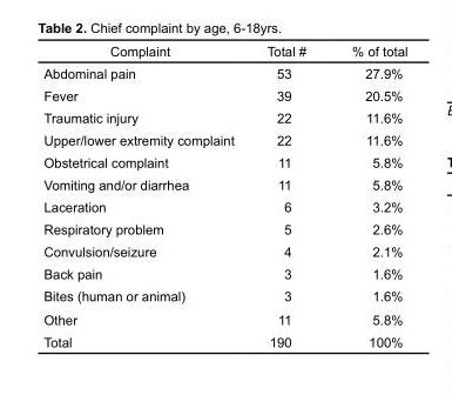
<table><thead><tr><td>Complaint</td><td>Total #</td><td>% of total</td></tr></thead><tbody><tr><td>Abdominal pain</td><td>53</td><td>27.9%</td></tr><tr><td>Fever</td><td>39</td><td>20.5%</td></tr><tr><td>Traumatic injury</td><td>22</td><td>11.6%</td></tr><tr><td>Upper/lower extremity complaint</td><td>22</td><td>11.6%</td></tr><tr><td>Obstetrical complaint</td><td>11</td><td>5.8%</td></tr><tr><td>Vomiting and/or diarrhea</td><td>11</td><td>5.8%</td></tr><tr><td>Laceration</td><td>6</td><td>3.2%</td></tr><tr><td>Respiratory problem</td><td>5</td><td>2.6%</td></tr><tr><td>Convulsion/seizure</td><td>4</td><td>2.1%</td></tr><tr><td>Back pain</td><td>3</td><td>1.6%</td></tr><tr><td>Bites (human or animal)</td><td>3</td><td>1.6%</td></tr><tr><td>Other</td><td>11</td><td>5.8%</td></tr><tr><td>Total</td><td>190</td><td>100%</td></tr></tbody></table>